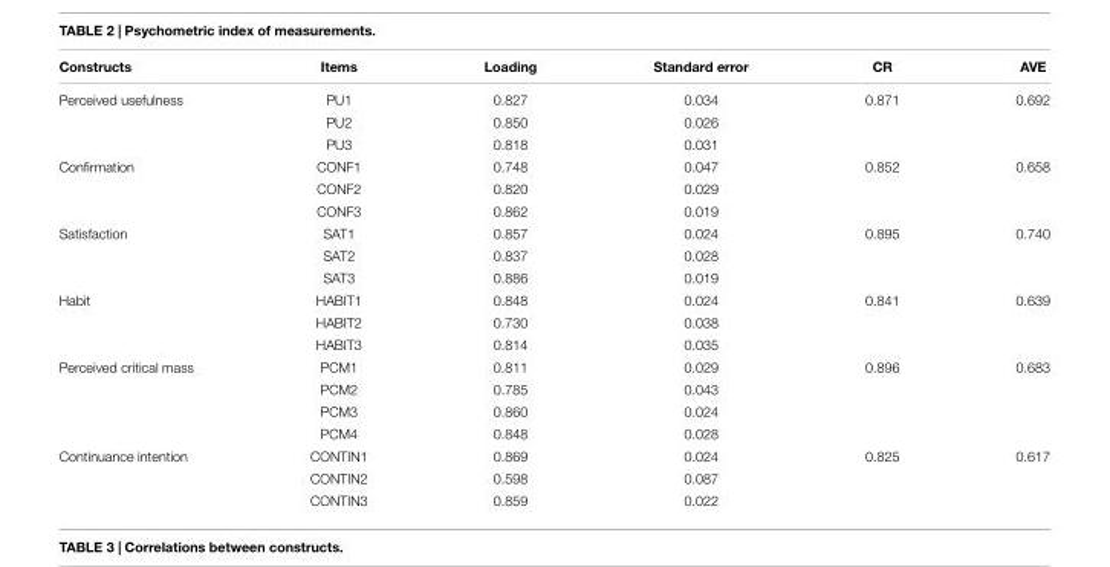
<table><thead><tr><td>Constructs</td><td>Items</td><td>Loading</td><td>Standard error</td><td>CR</td><td>AVE</td></tr></thead><tbody><tr><td rowspan="3">Perceived usefulness</td><td>PU1</td><td>0.827</td><td>0.034</td><td>0.871</td><td>0.692</td></tr><tr><td>PU2</td><td>0.850</td><td>0.026</td><td></td><td></td></tr><tr><td>PU3</td><td>0.818</td><td>0.031</td><td></td><td></td></tr><tr><td rowspan="3">Confirmation</td><td>CONF1</td><td>0.748</td><td>0.047</td><td>0.852</td><td>0.658</td></tr><tr><td>CONF2</td><td>0.820</td><td>0.029</td><td></td><td></td></tr><tr><td>CONF3</td><td>0.862</td><td>0.019</td><td></td><td></td></tr><tr><td rowspan="3">Satisfaction</td><td>SAT1</td><td>0.857</td><td>0.024</td><td>0.895</td><td>0.740</td></tr><tr><td>SAT2</td><td>0.837</td><td>0.028</td><td></td><td></td></tr><tr><td>SAT3</td><td>0.886</td><td>0.019</td><td></td><td></td></tr><tr><td rowspan="3">Habit</td><td>HABIT1</td><td>0.848</td><td>0.024</td><td>0.841</td><td>0.639</td></tr><tr><td>HABIT2</td><td>0.730</td><td>0.038</td><td></td><td></td></tr><tr><td>HABIT3</td><td>0.814</td><td>0.035</td><td></td><td></td></tr><tr><td rowspan="4">Perceived critical mass</td><td>PCM1</td><td>0.811</td><td>0.029</td><td>0.896</td><td>0.683</td></tr><tr><td>PCM2</td><td>0.785</td><td>0.043</td><td></td><td></td></tr><tr><td>PCM3</td><td>0.860</td><td>0.024</td><td></td><td></td></tr><tr><td>PCM4</td><td>0.848</td><td>0.028</td><td></td><td></td></tr><tr><td rowspan="3">Continuance intention</td><td>CONTIN1</td><td>0.869</td><td>0.024</td><td>0.825</td><td>0.617</td></tr><tr><td>CONTIN2</td><td>0.598</td><td>0.087</td><td></td><td></td></tr><tr><td>CONTIN3</td><td>0.859</td><td>0.022</td><td></td><td></td></tr></tbody></table>